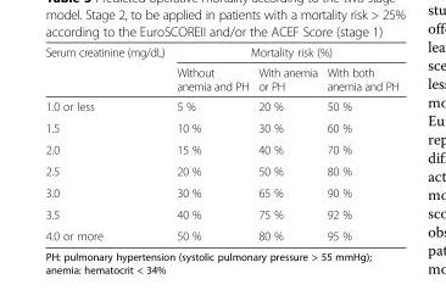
<table><thead><tr><td rowspan="2">Serum creatinine (mg/dL)</td><td colspan="3">Mortality risk (%)</td></tr><tr><td>Without anemia and PH</td><td>With anemia or PH</td><td>With both anemia and PH</td></tr></thead><tbody><tr><td>1.0 or less</td><td>5 %</td><td>20 %</td><td>50 %</td></tr><tr><td>1.5</td><td>10 %</td><td>30 %</td><td>60 %</td></tr><tr><td>2.0</td><td>15 %</td><td>40 %</td><td>70 %</td></tr><tr><td>2.5</td><td>20 %</td><td>50 %</td><td>80 %</td></tr><tr><td>3.0</td><td>30 %</td><td>65 %</td><td>90 %</td></tr><tr><td>3.5</td><td>40 %</td><td>75 %</td><td>92 %</td></tr><tr><td>4.0 or more</td><td>50 %</td><td>80 %</td><td>95 %</td></tr></tbody></table>